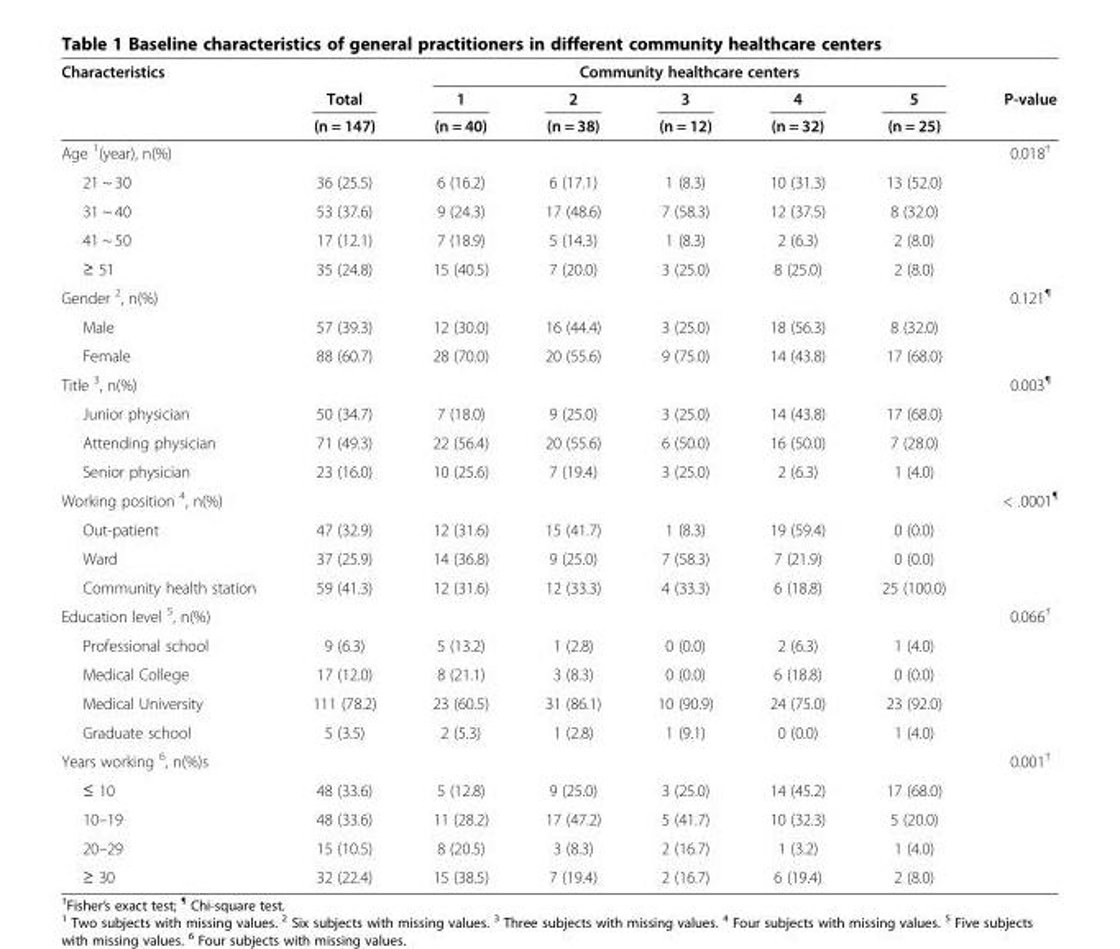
<table><thead><tr><td rowspan="3">Characteristics</td><td rowspan="3">Total (n = 147)</td><td colspan="5">Community healthcare centers</td><td rowspan="3">P-value</td></tr><tr><td rowspan="2">1 (n = 40)</td><td rowspan="2">2 (n = 38)</td><td rowspan="2">3 (n = 12)</td><td rowspan="2">4 (n = 32)</td><td rowspan="2">5 (n = 25)</td></tr><tr></tr></thead><tbody><tr><td colspan="7">Age <sup>1</sup>(year), n(%)</td><td>0.018<sup>†</sup></td></tr><tr><td>21 ~ 30</td><td>36 (25.5)</td><td>6 (16.2)</td><td>6 (17.1)</td><td>1 (8.3)</td><td>10 (31.3)</td><td>13 (52.0)</td><td></td></tr><tr><td>31 ~ 40</td><td>53 (37.6)</td><td>9 (24.3)</td><td>17 (48.6)</td><td>7 (58.3)</td><td>12 (37.5)</td><td>8 (32.0)</td><td></td></tr><tr><td>41 ~ 50</td><td>17 (12.1)</td><td>7 (18.9)</td><td>5 (14.3)</td><td>1 (8.3)</td><td>2 (6.3)</td><td>2 (8.0)</td><td></td></tr><tr><td>≥ 51</td><td>35 (24.8)</td><td>15 (40.5)</td><td>7 (20.0)</td><td>3 (25.0)</td><td>8 (25.0)</td><td>2 (8.0)</td><td></td></tr><tr><td colspan="7">Gender <sup>2</sup>, n(%)</td><td>0.121<sup>¶</sup></td></tr><tr><td>Male</td><td>57 (39.3)</td><td>12 (30.0)</td><td>16 (44.4)</td><td>3 (25.0)</td><td>18 (56.3)</td><td>8 (32.0)</td><td></td></tr><tr><td>Female</td><td>88 (60.7)</td><td>28 (70.0)</td><td>20 (55.6)</td><td>9 (75.0)</td><td>14 (43.8)</td><td>17 (68.0)</td><td></td></tr><tr><td colspan="7">Title <sup>3</sup>, n(%)</td><td>0.003<sup>¶</sup></td></tr><tr><td>Junior physician</td><td>50 (34.7)</td><td>7 (18.0)</td><td>9 (25.0)</td><td>3 (25.0)</td><td>14 (43.8)</td><td>17 (68.0)</td><td></td></tr><tr><td>Attending physician</td><td>71 (49.3)</td><td>22 (56.4)</td><td>20 (55.6)</td><td>6 (50.0)</td><td>16 (50.0)</td><td>7 (28.0)</td><td></td></tr><tr><td>Senior physician</td><td>23 (16.0)</td><td>10 (25.6)</td><td>7 (19.4)</td><td>3 (25.0)</td><td>2 (6.3)</td><td>1 (4.0)</td><td></td></tr><tr><td colspan="7">Working position <sup>4</sup>, n(%)</td><td>&lt; .0001<sup>¶</sup></td></tr><tr><td>Out-patient</td><td>47 (32.9)</td><td>12 (31.6)</td><td>15 (41.7)</td><td>1 (8.3)</td><td>19 (59.4)</td><td>0 (0.0)</td><td></td></tr><tr><td>Ward</td><td>37 (25.9)</td><td>14 (36.8)</td><td>9 (25.0)</td><td>7 (58.3)</td><td>7 (21.9)</td><td>0 (0.0)</td><td></td></tr><tr><td>Community health station</td><td>59 (41.3)</td><td>12 (31.6)</td><td>12 (33.3)</td><td>4 (33.3)</td><td>6 (18.8)</td><td>25 (100.0)</td><td></td></tr><tr><td colspan="7">Education level <sup>5</sup>, n(%)</td><td>0.066<sup>†</sup></td></tr><tr><td>Professional school</td><td>9 (6.3)</td><td>5 (13.2)</td><td>1 (2.8)</td><td>0 (0.0)</td><td>2 (6.3)</td><td>1 (4.0)</td><td></td></tr><tr><td>Medical College</td><td>17 (12.0)</td><td>8 (21.1)</td><td>3 (8.3)</td><td>0 (0.0)</td><td>6 (18.8)</td><td>0 (0.0)</td><td></td></tr><tr><td>Medical University</td><td>111 (78.2)</td><td>23 (60.5)</td><td>31 (86.1)</td><td>10 (90.9)</td><td>24 (75.0)</td><td>23 (92.0)</td><td></td></tr><tr><td>Graduate school</td><td>5 (3.5)</td><td>2 (5.3)</td><td>1 (2.8)</td><td>1 (9.1)</td><td>0 (0.0)</td><td>1 (4.0)</td><td></td></tr><tr><td colspan="7">Years working <sup>6</sup>, n(%)s</td><td>0.001<sup>†</sup></td></tr><tr><td>≤ 10</td><td>48 (33.6)</td><td>5 (12.8)</td><td>9 (25.0)</td><td>3 (25.0)</td><td>14 (45.2)</td><td>17 (68.0)</td><td></td></tr><tr><td>10–19</td><td>48 (33.6)</td><td>11 (28.2)</td><td>17 (47.2)</td><td>5 (41.7)</td><td>10 (32.3)</td><td>5 (20.0)</td><td></td></tr><tr><td>20–29</td><td>15 (10.5)</td><td>8 (20.5)</td><td>3 (8.3)</td><td>2 (16.7)</td><td>1 (3.2)</td><td>1 (4.0)</td><td></td></tr><tr><td>≥ 30</td><td>32 (22.4)</td><td>15 (38.5)</td><td>7 (19.4)</td><td>2 (16.7)</td><td>6 (19.4)</td><td>2 (8.0)</td><td></td></tr></tbody></table>